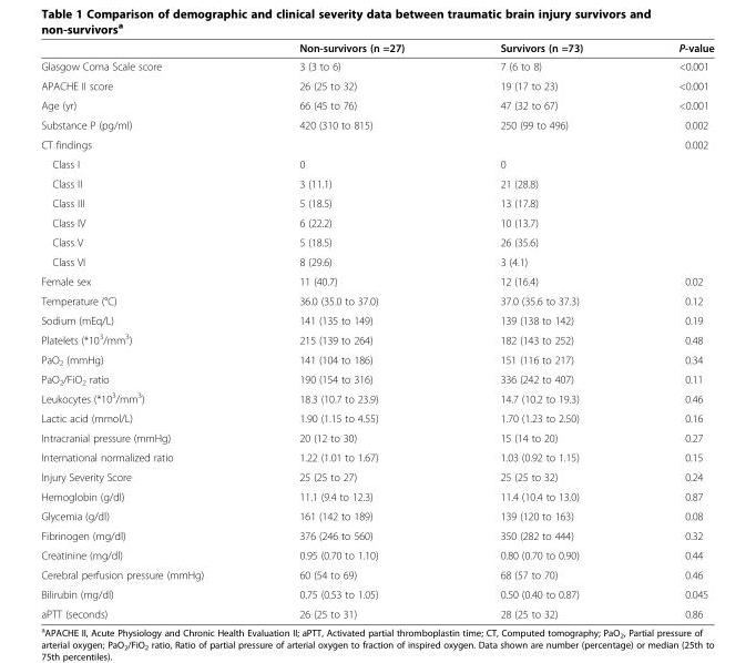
<table><thead><tr><td></td><td>Non-survivors (n =27)</td><td>Survivors (n =73)</td><td>P-value</td></tr></thead><tbody><tr><td>Glasgow Coma Scale score</td><td>3 (3 to 6)</td><td>7 (6 to 8)</td><td>&lt;0.001</td></tr><tr><td>APACHE II score</td><td>26 (25 to 32)</td><td>19 (17 to 23)</td><td>&lt;0.001</td></tr><tr><td>Age (yr)</td><td>66 (45 to 76)</td><td>47 (32 to 67)</td><td>&lt;0.001</td></tr><tr><td>Substance P (pg/ml)</td><td>420 (310 to 815)</td><td>250 (99 to 496)</td><td>0.002</td></tr><tr><td>CT findings</td><td></td><td></td><td>0.002</td></tr><tr><td>Class I</td><td>0</td><td>0</td><td></td></tr><tr><td>Class II</td><td>3 (11.1)</td><td>21 (28.8)</td><td></td></tr><tr><td>Class III</td><td>5 (18.5)</td><td>13 (17.8)</td><td></td></tr><tr><td>Class IV</td><td>6 (22.2)</td><td>10 (13.7)</td><td></td></tr><tr><td>Class V</td><td>5 (18.5)</td><td>26 (35.6)</td><td></td></tr><tr><td>Class VI</td><td>8 (29.6)</td><td>3 (4.1)</td><td></td></tr><tr><td>Female sex</td><td>11 (40.7)</td><td>12 (16.4)</td><td>0.02</td></tr><tr><td>Temperature (°C)</td><td>36.0 (35.0 to 37.0)</td><td>37.0 (35.6 to 37.3)</td><td>0.12</td></tr><tr><td>Sodium (mEq/L)</td><td>141 (135 to 149)</td><td>139 (138 to 142)</td><td>0.19</td></tr><tr><td>Platelets (*10<sup>3</sup>/mm<sup>3</sup>)</td><td>215 (139 to 264)</td><td>182 (143 to 252)</td><td>0.48</td></tr><tr><td>PaO<sub>2</sub> (mmHg)</td><td>141 (104 to 186)</td><td>151 (116 to 217)</td><td>0.34</td></tr><tr><td>PaO<sub>2</sub>/FiO<sub>2</sub> ratio</td><td>190 (154 to 316)</td><td>336 (242 to 407)</td><td>0.11</td></tr><tr><td>Leukocytes (*10<sup>3</sup>/mm<sup>3</sup>)</td><td>18.3 (10.7 to 23.9)</td><td>14.7 (10.2 to 19.3)</td><td>0.46</td></tr><tr><td>Lactic acid (mmol/L)</td><td>1.90 (1.15 to 4.55)</td><td>1.70 (1.23 to 2.50)</td><td>0.16</td></tr><tr><td>Intracranial pressure (mmHg)</td><td>20 (12 to 30)</td><td>15 (14 to 20)</td><td>0.27</td></tr><tr><td>International normalized ratio</td><td>1.22 (1.01 to 1.67)</td><td>1.03 (0.92 to 1.15)</td><td>0.15</td></tr><tr><td>Injury Severity Score</td><td>25 (25 to 27)</td><td>25 (25 to 32)</td><td>0.24</td></tr><tr><td>Hemoglobin (g/dl)</td><td>11.1 (9.4 to 12.3)</td><td>11.4 (10.4 to 13.0)</td><td>0.87</td></tr><tr><td>Glycemia (g/dl)</td><td>161 (142 to 189)</td><td>139 (120 to 163)</td><td>0.08</td></tr><tr><td>Fibrinogen (mg/dl)</td><td>376 (246 to 560)</td><td>350 (282 to 444)</td><td>0.32</td></tr><tr><td>Creatinine (mg/dl)</td><td>0.95 (0.70 to 1.10)</td><td>0.80 (0.70 to 0.90)</td><td>0.44</td></tr><tr><td>Cerebral perfusion pressure (mmHg)</td><td>60 (54 to 69)</td><td>68 (57 to 70)</td><td>0.46</td></tr><tr><td>Bilirubin (mg/dl)</td><td>0.75 (0.53 to 1.05)</td><td>0.50 (0.40 to 0.87)</td><td>0.045</td></tr><tr><td>aPTT (seconds)</td><td>26 (25 to 31)</td><td>28 (25 to 32)</td><td>0.86</td></tr></tbody></table>